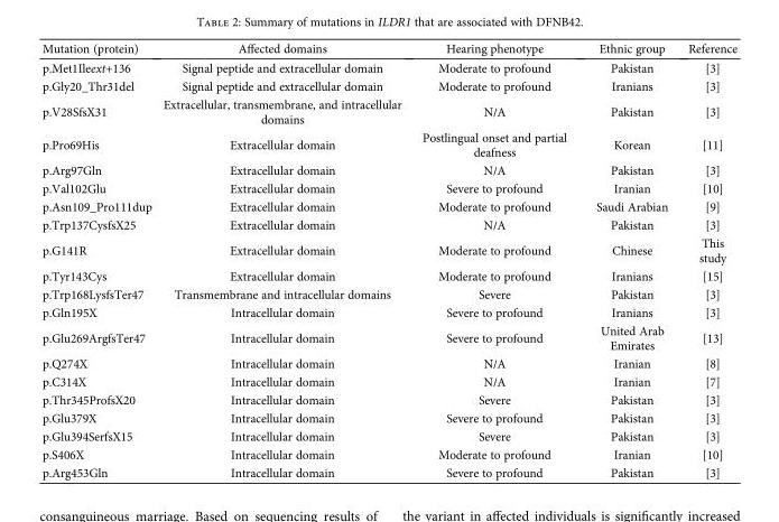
<table><thead><tr><td>Mutation (protein)</td><td>Affected domains</td><td>Hearing phenotype</td><td>Ethnic group</td><td>Reference</td></tr></thead><tbody><tr><td>p.Met1Ileext+136</td><td>Signal peptide and extracellular domain</td><td>Moderate to profound</td><td>Pakistan</td><td>[3]</td></tr><tr><td>p.Gly20_Thr31del</td><td>Signal peptide and extracellular domain</td><td>Moderate to profound</td><td>Iranians</td><td>[3]</td></tr><tr><td>p.V28SfsX31</td><td>Extracellular, transmembrane, and intracellular domains</td><td>N/A</td><td>Pakistan</td><td>[3]</td></tr><tr><td>p.Pro69His</td><td>Extracellular domain</td><td>Postlingual onset and partial deafness</td><td>Korean</td><td>[11]</td></tr><tr><td>p.Arg97Gln</td><td>Extracellular domain</td><td>N/A</td><td>Pakistan</td><td>[3]</td></tr><tr><td>p.Val102Glu</td><td>Extracellular domain</td><td>Severe to profound</td><td>Iranian</td><td>[10]</td></tr><tr><td>p.Asn109_Pro111dup</td><td>Extracellular domain</td><td>Moderate to profound</td><td>Saudi Arabian</td><td>[9]</td></tr><tr><td>p.Trp137CysfsX25</td><td>Extracellular domain</td><td>N/A</td><td>Pakistan</td><td>[3]</td></tr><tr><td>p.G141R</td><td>Extracellular domain</td><td>Moderate to profound</td><td>Chinese</td><td>This study</td></tr><tr><td>p.Tyr143Cys</td><td>Extracellular domain</td><td>Moderate to profound</td><td>Iranians</td><td>[15]</td></tr><tr><td>p.Trp168LysfsTer47</td><td>Transmembrane and intracellular domains</td><td>Severe</td><td>Pakistan</td><td>[3]</td></tr><tr><td>p.Gln195X</td><td>Intracellular domain</td><td>Severe to profound</td><td>Iranians</td><td>[3]</td></tr><tr><td>p.Glu269ArgfsTer47</td><td>Intracellular domain</td><td>Severe to profound</td><td>United Arab Emirates</td><td>[13]</td></tr><tr><td>p.Q274X</td><td>Intracellular domain</td><td>N/A</td><td>Iranian</td><td>[8]</td></tr><tr><td>p.C314X</td><td>Intracellular domain</td><td>N/A</td><td>Iranian</td><td>[7]</td></tr><tr><td>p.Thr345ProfsX20</td><td>Intracellular domain</td><td>Severe</td><td>Pakistan</td><td>[3]</td></tr><tr><td>p.Glu379X</td><td>Intracellular domain</td><td>Severe to profound</td><td>Pakistan</td><td>[3]</td></tr><tr><td>p.Glu394SerfsX15</td><td>Intracellular domain</td><td>Severe</td><td>Pakistan</td><td>[3]</td></tr><tr><td>p.S406X</td><td>Intracellular domain</td><td>Moderate to profound</td><td>Iranian</td><td>[10]</td></tr><tr><td>p.Arg453Gln</td><td>Intracellular domain</td><td>Severe to profound</td><td>Pakistan</td><td>[3]</td></tr></tbody></table>